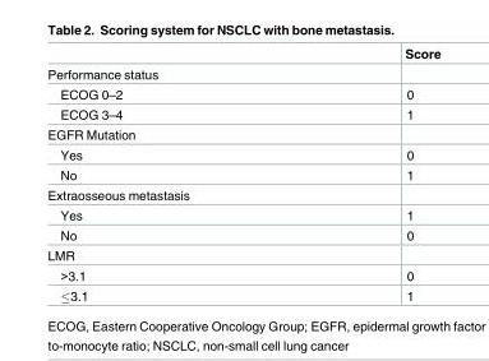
<table><thead><tr><td></td><td>Score</td></tr></thead><tbody><tr><td colspan="2">Performance status</td></tr><tr><td>ECOG 0–2</td><td>0</td></tr><tr><td>ECOG 3–4</td><td>1</td></tr><tr><td colspan="2">EGFR Mutation</td></tr><tr><td>Yes</td><td>0</td></tr><tr><td>No</td><td>1</td></tr><tr><td colspan="2">Extraosseous metastasis</td></tr><tr><td>Yes</td><td>1</td></tr><tr><td>No</td><td>0</td></tr><tr><td colspan="2">LMR</td></tr><tr><td>&gt;3.1</td><td>0</td></tr><tr><td>≤3.1</td><td>1</td></tr></tbody></table>